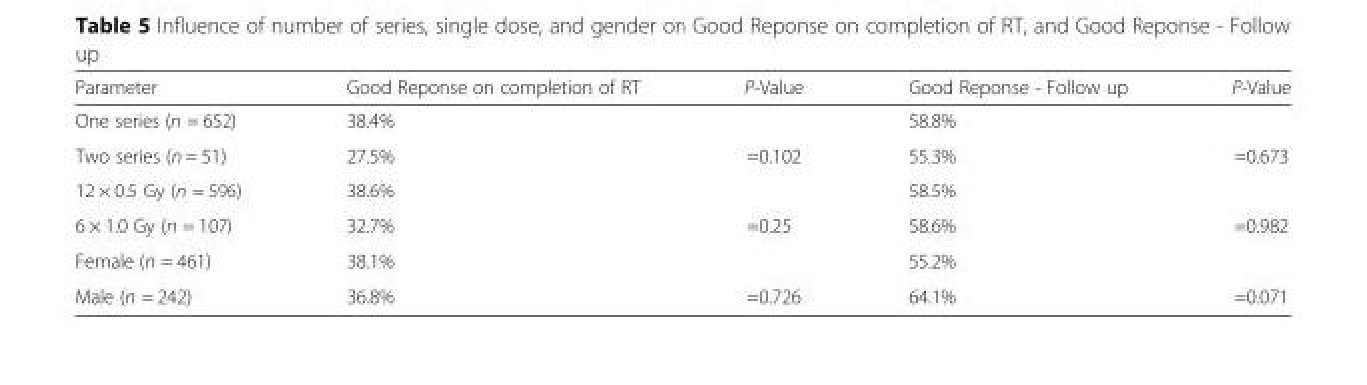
<table><thead><tr><td>Parameter</td><td>Good Reponse on completion of RT</td><td>P-Value</td><td>Good Reponse - Follow up</td><td>P-Value</td></tr></thead><tbody><tr><td>One series (n = 652)</td><td>38.4%</td><td></td><td>58.8%</td><td></td></tr><tr><td>Two series (n = 51)</td><td>27.5%</td><td>=0.102</td><td>55.3%</td><td>=0.673</td></tr><tr><td>12 × 0.5 Gy (n = 596)</td><td>38.6%</td><td></td><td>58.5%</td><td></td></tr><tr><td>6 × 1.0 Gy (n = 107)</td><td>32.7%</td><td>=0.25</td><td>58.6%</td><td>=0.982</td></tr><tr><td>Female (n = 461)</td><td>38.1%</td><td></td><td>55.2%</td><td></td></tr><tr><td>Male (n = 242)</td><td>36.8%</td><td>=0.726</td><td>64.1%</td><td>=0.071</td></tr></tbody></table>